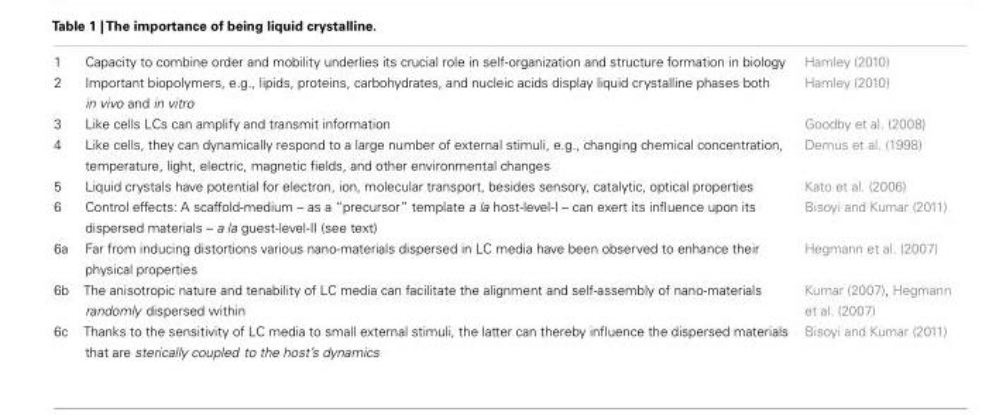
<table><tbody><tr><td>1</td><td>Capacity to combine order and mobility underlies its crucial role in self-organization and structure formation in biology</td><td>Hamley (2010)</td></tr><tr><td>2</td><td>Important biopolymers, e.g., lipids, proteins, carbohydrates, and nucleic acids display liquid crystalline phases both in vivo and in vitro</td><td>Hamley (2010)</td></tr><tr><td>3</td><td>Like cells LCs can amplify and transmit information</td><td>Goodby et al. (2008)</td></tr><tr><td>4</td><td>Like cells, they can dynamically respond to a large number of external stimuli, e.g., changing chemical concentration, temperature, light, electric, magnetic fields, and other environmental changes</td><td>Demus et al. (1998)</td></tr><tr><td>5</td><td>Liquid crystals have potential for electron, ion, molecular transport, besides sensory, catalytic, optical properties</td><td>Kato et al. (2006)</td></tr><tr><td>6</td><td>Control effects: A scaffold-medium – as a “precursor” template a la host-level-I – can exert its influence upon its dispersed materials – a la guest-level-II (see text)</td><td>Bisoyi and Kumar (2011)</td></tr><tr><td>6a</td><td>Far from inducing distortions various nano-materials dispersed in LC media have been observed to enhance their physical properties</td><td>Hegmann et al. (2007)</td></tr><tr><td>6b</td><td>The anisotropic nature and tenability of LC media can facilitate the alignment and self-assembly of nano-materials randomly dispersed within</td><td>Kumar (2007), Hegmann et al. (2007)</td></tr><tr><td>6c</td><td>Thanks to the sensitivity of LC media to small external stimuli, the latter can thereby influence the dispersed materials that are sterically coupled to the host’s dynamics</td><td>Bisoyi and Kumar (2011)</td></tr></tbody></table>